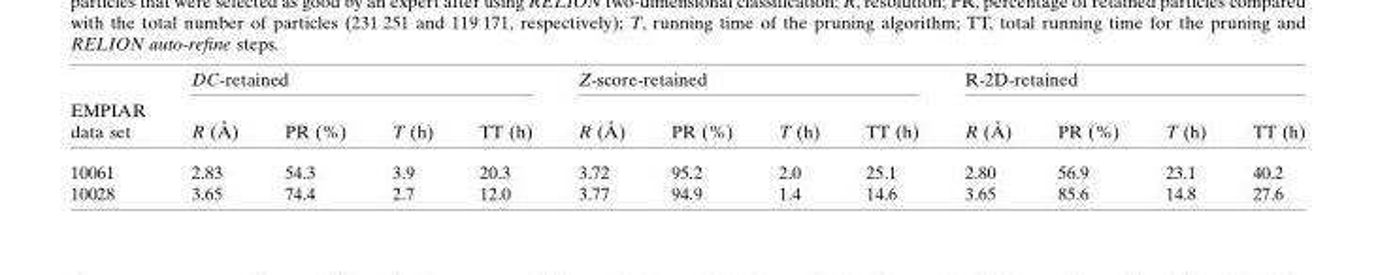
<table><thead><tr><td rowspan="2">EMPIAR data set</td><td colspan="4">DC-retained</td><td colspan="4">Z-score-retained</td><td colspan="4">R-2D-retained</td></tr><tr><td>R (A˚ )</td><td>PR (%)</td><td>T (h)</td><td>TT (h)</td><td>R (A˚ )</td><td>PR (%)</td><td>T (h)</td><td>TT (h)</td><td>R (A˚ )</td><td>PR (%)</td><td>T (h)</td><td>TT (h)</td></tr></thead><tbody><tr><td>10061</td><td>2.83</td><td>54.3</td><td>3.9</td><td>20.3</td><td>3.72</td><td>95.2</td><td>2.0</td><td>25.1</td><td>2.80</td><td>56.9</td><td>23.1</td><td>40.2</td></tr><tr><td>10028</td><td>3.65</td><td>74.4</td><td>2.7</td><td>12.0</td><td>3.77</td><td>94.9</td><td>1.4</td><td>14.6</td><td>3.65</td><td>85.6</td><td>14.8</td><td>27.6</td></tr></tbody></table>